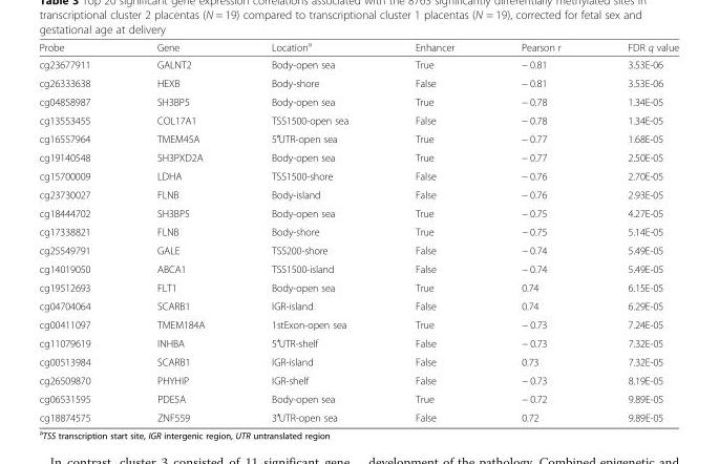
<table><thead><tr><td>Probe</td><td>Gene</td><td>Location<sup>a</sup></td><td>Enhancer</td><td>Pearson r</td><td>FDR q value</td></tr></thead><tbody><tr><td>cg23677911</td><td>GALNT2</td><td>Body-open sea</td><td>True</td><td>− 0.81</td><td>3.53E-06</td></tr><tr><td>cg26333638</td><td>HEXB</td><td>Body-shore</td><td>False</td><td>− 0.81</td><td>3.53E-06</td></tr><tr><td>cg04858987</td><td>SH3BP5</td><td>Body-open sea</td><td>True</td><td>− 0.78</td><td>1.34E-05</td></tr><tr><td>cg13553455</td><td>COL17A1</td><td>TSS1500-open sea</td><td>False</td><td>− 0.78</td><td>1.34E-05</td></tr><tr><td>cg16557964</td><td>TMEM45A</td><td>5′UTR-open sea</td><td>True</td><td>− 0.77</td><td>1.68E-05</td></tr><tr><td>cg19140548</td><td>SH3PXD2A</td><td>Body-open sea</td><td>True</td><td>− 0.77</td><td>2.50E-05</td></tr><tr><td>cg15700009</td><td>LDHA</td><td>TSS1500-shore</td><td>False</td><td>− 0.76</td><td>2.70E-05</td></tr><tr><td>cg23730027</td><td>FLNB</td><td>Body-island</td><td>False</td><td>− 0.76</td><td>2.93E-05</td></tr><tr><td>cg18444702</td><td>SH3BP5</td><td>Body-open sea</td><td>True</td><td>− 0.75</td><td>4.27E-05</td></tr><tr><td>cg17338821</td><td>FLNB</td><td>Body-shore</td><td>True</td><td>− 0.75</td><td>5.14E-05</td></tr><tr><td>cg25549791</td><td>GALE</td><td>TSS200-shore</td><td>False</td><td>− 0.74</td><td>5.49E-05</td></tr><tr><td>cg14019050</td><td>ABCA1</td><td>TSS1500-island</td><td>False</td><td>− 0.74</td><td>5.49E-05</td></tr><tr><td>cg19512693</td><td>FLT1</td><td>Body-open sea</td><td>True</td><td>0.74</td><td>6.15E-05</td></tr><tr><td>cg04704064</td><td>SCARB1</td><td>IGR-island</td><td>False</td><td>0.74</td><td>6.29E-05</td></tr><tr><td>cg00411097</td><td>TMEM184A</td><td>1stExon-open sea</td><td>True</td><td>− 0.73</td><td>7.24E-05</td></tr><tr><td>cg11079619</td><td>INHBA</td><td>5′UTR-shelf</td><td>False</td><td>− 0.73</td><td>7.32E-05</td></tr><tr><td>cg00513984</td><td>SCARB1</td><td>IGR-island</td><td>False</td><td>0.73</td><td>7.32E-05</td></tr><tr><td>cg26509870</td><td>PHYHIP</td><td>IGR-shelf</td><td>False</td><td>− 0.73</td><td>8.19E-05</td></tr><tr><td>cg06531595</td><td>PDE5A</td><td>Body-open sea</td><td>True</td><td>− 0.72</td><td>9.89E-05</td></tr><tr><td>cg18874575</td><td>ZNF559</td><td>3′UTR-open sea</td><td>False</td><td>0.72</td><td>9.89E-05</td></tr></tbody></table>